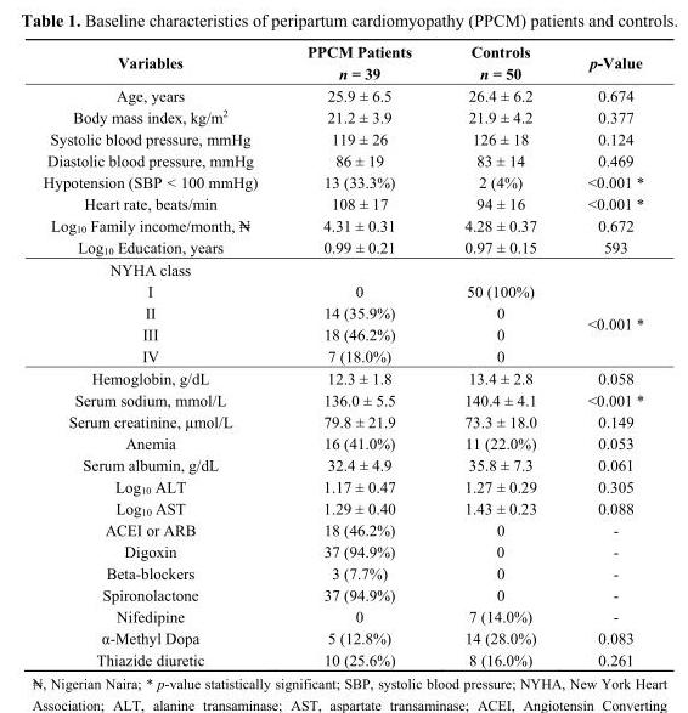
<table><thead><tr><td>Variables</td><td>PPCM Patients n = 39</td><td>Controls n = 50</td><td>p-Value</td></tr></thead><tbody><tr><td>Age, years</td><td>25.9 ± 6.5</td><td>26.4 ± 6.2</td><td>0.674</td></tr><tr><td>Body mass index, kg/m<sup>2</sup></td><td>21.2 ± 3.9</td><td>21.9 ± 4.2</td><td>0.377</td></tr><tr><td>Systolic blood pressure, mmHg</td><td>119 ± 26</td><td>126 ± 18</td><td>0.124</td></tr><tr><td>Diastolic blood pressure, mmHg</td><td>86 ± 19</td><td>83 ± 14</td><td>0.469</td></tr><tr><td>Hypotension (SBP &lt; 100 mmHg)</td><td>13 (33.3%)</td><td>2 (4%)</td><td>&lt;0.001 *</td></tr><tr><td>Heart rate, beats/min</td><td>108 ± 17</td><td>94 ± 16</td><td>&lt;0.001 *</td></tr><tr><td>Log<sub>10</sub> Family income/month, ₦</td><td>4.31 ± 0.31</td><td>4.28 ± 0.37</td><td>0.672</td></tr><tr><td>Log<sub>10</sub> Education, years</td><td>0.99 ± 0.21</td><td>0.97 ± 0.15</td><td>593</td></tr><tr><td colspan="4">NYHA class</td></tr><tr><td>I</td><td>0</td><td>50 (100%)</td><td rowspan="4">&lt;0.001 *</td></tr><tr><td>II</td><td>14 (35.9%)</td><td>0</td></tr><tr><td>III</td><td>18 (46.2%)</td><td>0</td></tr><tr><td>IV</td><td>7 (18.0%)</td><td>0</td></tr><tr><td>Hemoglobin, g/dL</td><td>12.3 ± 1.8</td><td>13.4 ± 2.8</td><td>0.058</td></tr><tr><td>Serum sodium, mmol/L</td><td>136.0 ± 5.5</td><td>140.4 ± 4.1</td><td>&lt;0.001 *</td></tr><tr><td>Serum creatinine, µmol/L</td><td>79.8 ± 21.9</td><td>73.3 ± 18.0</td><td>0.149</td></tr><tr><td>Anemia</td><td>16 (41.0%)</td><td>11 (22.0%)</td><td>0.053</td></tr><tr><td>Serum albumin, g/dL</td><td>32.4 ± 4.9</td><td>35.8 ± 7.3</td><td>0.061</td></tr><tr><td>Log<sub>10</sub> ALT</td><td>1.17 ± 0.47</td><td>1.27 ± 0.29</td><td>0.305</td></tr><tr><td>Log<sub>10</sub> AST</td><td>1.29 ± 0.40</td><td>1.43 ± 0.23</td><td>0.088</td></tr><tr><td>ACEI or ARB</td><td>18 (46.2%)</td><td>0</td><td>-</td></tr><tr><td>Digoxin</td><td>37 (94.9%)</td><td>0</td><td>-</td></tr><tr><td>Beta-blockers</td><td>3 (7.7%)</td><td>0</td><td>-</td></tr><tr><td>Spironolactone</td><td>37 (94.9%)</td><td>0</td><td>-</td></tr><tr><td>Nifedipine</td><td>0</td><td>7 (14.0%)</td><td>-</td></tr><tr><td>α-Methyl Dopa</td><td>5 (12.8%)</td><td>14 (28.0%)</td><td>0.083</td></tr><tr><td>Thiazide diuretic</td><td>10 (25.6%)</td><td>8 (16.0%)</td><td>0.261</td></tr></tbody></table>